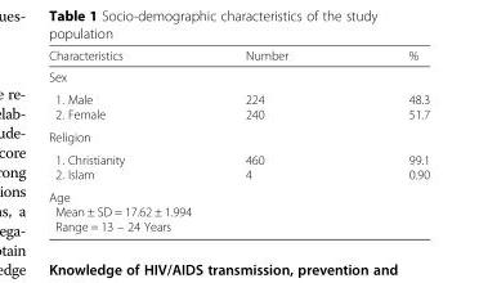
<table><thead><tr><td>Characteristics</td><td>Number</td><td>%</td></tr></thead><tbody><tr><td colspan="3">Sex</td></tr><tr><td>1. Male 2. Female</td><td>224 240</td><td>48.3 51.7</td></tr><tr><td colspan="3">Religion</td></tr><tr><td>1. Christianity 2. Islam</td><td>460 4</td><td>99.1 0.90</td></tr><tr><td colspan="3">Age Mean ± SD = 17.62 ± 1.994 Range = 13 – 24 Years</td></tr></tbody></table>